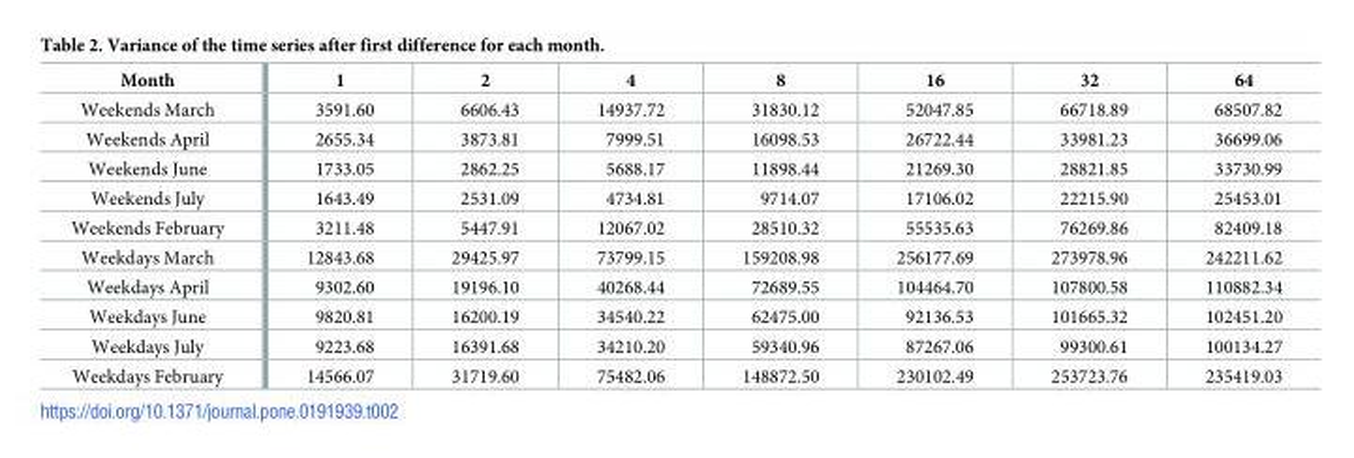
<table><thead><tr><td>Month</td><td>1</td><td>2</td><td>4</td><td>8</td><td>16</td><td>32</td><td>64</td></tr></thead><tbody><tr><td>Weekends March</td><td>3591.60</td><td>6606.43</td><td>14937.72</td><td>31830.12</td><td>52047.85</td><td>66718.89</td><td>68507.82</td></tr><tr><td>Weekends April</td><td>2655.34</td><td>3873.81</td><td>7999.51</td><td>16098.53</td><td>26722.44</td><td>33981.23</td><td>36699.06</td></tr><tr><td>Weekends June</td><td>1733.05</td><td>2862.25</td><td>5688.17</td><td>11898.44</td><td>21269.30</td><td>28821.85</td><td>33730.99</td></tr><tr><td>Weekends July</td><td>1643.49</td><td>2531.09</td><td>4734.81</td><td>9714.07</td><td>17106.02</td><td>22215.90</td><td>25453.01</td></tr><tr><td>Weekends February</td><td>3211.48</td><td>5447.91</td><td>12067.02</td><td>28510.32</td><td>55535.63</td><td>76269.86</td><td>82409.18</td></tr><tr><td>Weekdays March</td><td>12843.68</td><td>29425.97</td><td>73799.15</td><td>159208.98</td><td>256177.69</td><td>273978.96</td><td>242211.62</td></tr><tr><td>Weekdays April</td><td>9302.60</td><td>19196.10</td><td>40268.44</td><td>72689.55</td><td>104464.70</td><td>107800.58</td><td>110882.34</td></tr><tr><td>Weekdays June</td><td>9820.81</td><td>16200.19</td><td>34540.22</td><td>62475.00</td><td>92136.53</td><td>101665.32</td><td>102451.20</td></tr><tr><td>Weekdays July</td><td>9223.68</td><td>16391.68</td><td>34210.20</td><td>59340.96</td><td>87267.06</td><td>99300.61</td><td>100134.27</td></tr><tr><td>Weekdays February</td><td>14566.07</td><td>31719.60</td><td>75482.06</td><td>148872.50</td><td>230102.49</td><td>253723.76</td><td>235419.03</td></tr></tbody></table>